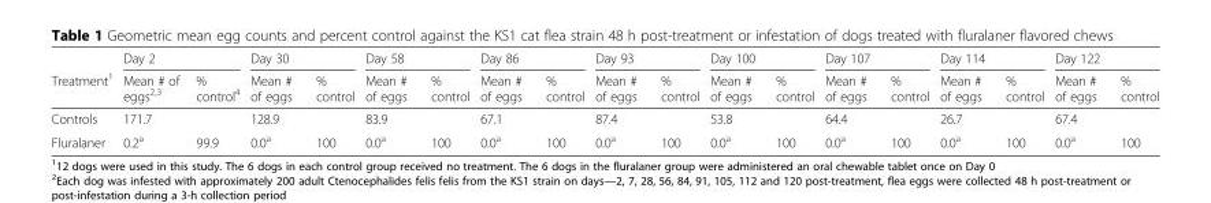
<table><thead><tr><td rowspan="2">Treatment<sup>1</sup></td><td colspan="2">Day 2</td><td colspan="2">Day 30</td><td colspan="2">Day 58</td><td colspan="2">Day 86</td><td colspan="2">Day 93</td><td colspan="2">Day 100</td><td colspan="2">Day 107</td><td colspan="2">Day 114</td><td colspan="2">Day 122</td></tr><tr><td>Mean # of eggs<sup>2,3</sup></td><td>% control<sup>4</sup></td><td>Mean # of eggs</td><td>% control</td><td>Mean # of eggs</td><td>% control</td><td>Mean # of eggs</td><td>% control</td><td>Mean # of eggs</td><td>% control</td><td>Mean # of eggs</td><td>% control</td><td>Mean # of eggs</td><td>% control</td><td>Mean # of eggs</td><td>% control</td><td>Mean # of eggs</td><td>% control</td></tr></thead><tbody><tr><td>Controls</td><td>171.7</td><td></td><td>128.9</td><td></td><td>83.9</td><td></td><td>67.1</td><td></td><td>87.4</td><td></td><td>53.8</td><td></td><td>64.4</td><td></td><td>26.7</td><td></td><td>67.4</td><td></td></tr><tr><td>Fluralaner</td><td>0.2<sup>a</sup></td><td>99.9</td><td>0.0<sup>a</sup></td><td>100</td><td>0.0<sup>a</sup></td><td>100</td><td>0.0<sup>a</sup></td><td>100</td><td>0.0<sup>a</sup></td><td>100</td><td>0.0<sup>a</sup></td><td>100</td><td>0.0<sup>a</sup></td><td>100</td><td>0.0<sup>a</sup></td><td>100</td><td>0.0<sup>a</sup></td><td>100</td></tr></tbody></table>